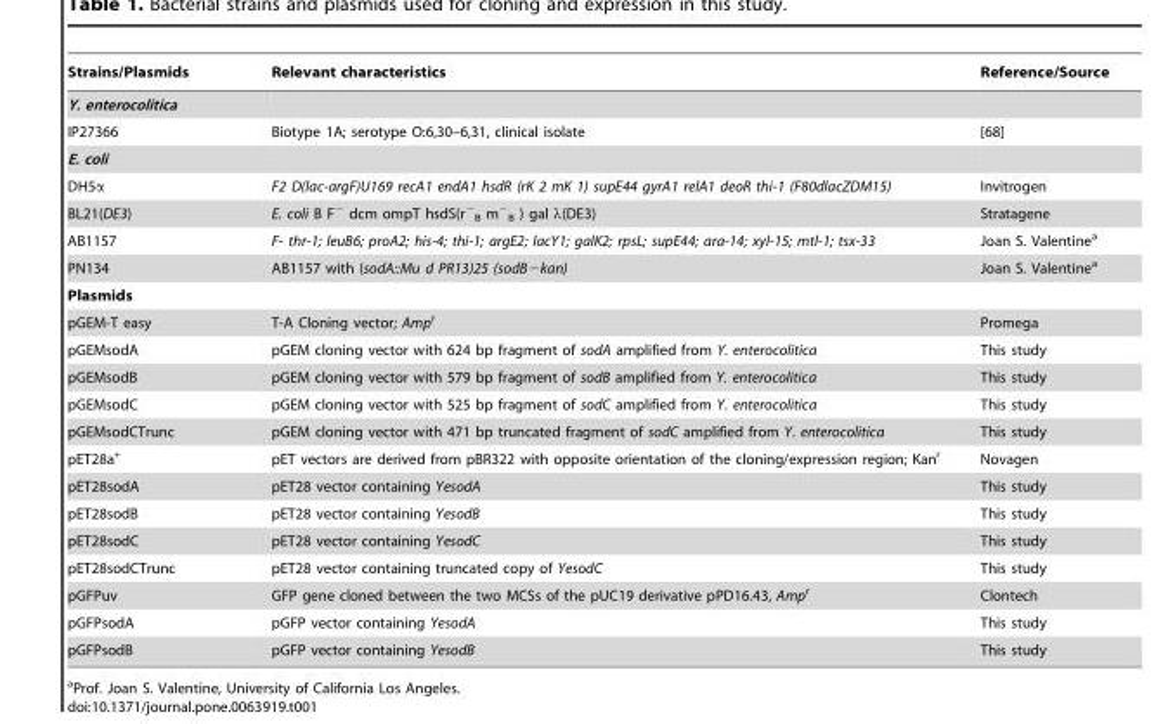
<table><thead><tr><td>Strains/Plasmids</td><td>Relevant characteristics</td><td>Reference/Source</td></tr></thead><tbody><tr><td colspan="3">Y. enterocolitica</td></tr><tr><td>IP27366</td><td>Biotype 1A; serotype O:6,30–6,31, clinical isolate</td><td>[68]</td></tr><tr><td colspan="3">E. coli</td></tr><tr><td>DH5α</td><td>F2 D(lac-argF)U169 recA1 endA1 hsdR (rK 2 mK 1) supE44 gyrA1 relA1 deoR thi-1 (F80dlacZDM15)</td><td>Invitrogen</td></tr><tr><td>BL21(DE3)</td><td>E. coli B F<sup>−</sup> dcm ompT hsdS(r<sup>−</sup> <sub>B</sub> m<sup>−</sup> <sub>B</sub> ) gal λ(DE3)</td><td>Stratagene</td></tr><tr><td>AB1157</td><td>F- thr-1; leuB6; proA2; his-4; thi-1; argE2; lacY1; galK2; rpsL; supE44; ara-14; xyl-15; mtl-1; tsx-33</td><td>Joan S. Valentine<sup>a</sup></td></tr><tr><td>PN134</td><td>AB1157 with (sodA::Mu d PR13)25 (sodB−kan)</td><td>Joan S. Valentine<sup>a</sup></td></tr><tr><td colspan="3">Plasmids</td></tr><tr><td>pGEM-T easy</td><td>T-A Cloning vector; Amp<sup>r</sup></td><td>Promega</td></tr><tr><td>pGEMsodA</td><td>pGEM cloning vector with 624 bp fragment of sodA amplified from Y. enterocolitica</td><td>This study</td></tr><tr><td>pGEMsodB</td><td>pGEM cloning vector with 579 bp fragment of sodB amplified from Y. enterocolitica</td><td>This study</td></tr><tr><td>pGEMsodC</td><td>pGEM cloning vector with 525 bp fragment of sodC amplified from Y. enterocolitica</td><td>This study</td></tr><tr><td>pGEMsodCTrunc</td><td>pGEM cloning vector with 471 bp truncated fragment of sodC amplified from Y. enterocolitica</td><td>This study</td></tr><tr><td>pET28a<sup>+</sup></td><td>pET vectors are derived from pBR322 with opposite orientation of the cloning/expression region; Kan<sup>r</sup></td><td>Novagen</td></tr><tr><td>pET28sodA</td><td>pET28 vector containing YesodA</td><td>This study</td></tr><tr><td>pET28sodB</td><td>pET28 vector containing YesodB</td><td>This study</td></tr><tr><td>pET28sodC</td><td>pET28 vector containing YesodC</td><td>This study</td></tr><tr><td>pET28sodCTrunc</td><td>pET28 vector containing truncated copy of YesodC</td><td>This study</td></tr><tr><td>pGFPuv</td><td>GFP gene cloned between the two MCSs of the pUC19 derivative pPD16.43, Amp<sup>r</sup></td><td>Clontech</td></tr><tr><td>pGFPsodA</td><td>pGFP vector containing YesodA</td><td>This study</td></tr><tr><td>pGFPsodB</td><td>pGFP vector containing YesodB</td><td>This study</td></tr></tbody></table>